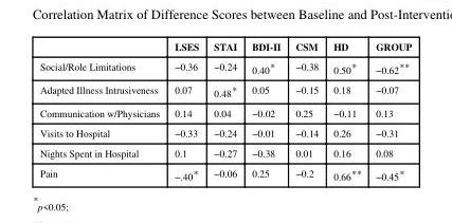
<table><thead><tr><td></td><td>LSES</td><td>STAI</td><td>BDI-II</td><td>CSM</td><td>HD</td><td>GROUP</td></tr></thead><tbody><tr><td>Social/Role Limitations</td><td>−0.36</td><td>−0.24</td><td>0.40*</td><td>−0.38</td><td>0.50*</td><td>−0.62**</td></tr><tr><td>Adapted Illness Intrusiveness</td><td>0.07</td><td>0.48*</td><td>0.05</td><td>−0.15</td><td>0.18</td><td>−0.07</td></tr><tr><td>Communication w/Physicians</td><td>0.14</td><td>0.04</td><td>−0.02</td><td>0.25</td><td>−0.11</td><td>0.13</td></tr><tr><td>Visits to Hospital</td><td>−0.33</td><td>−0.24</td><td>−0.01</td><td>−0.14</td><td>0.26</td><td>−0.31</td></tr><tr><td>Nights Spent in Hospital</td><td>0.1</td><td>−0.27</td><td>−0.38</td><td>0.01</td><td>0.16</td><td>0.08</td></tr><tr><td>Pain</td><td>−.40*</td><td>−0.06</td><td>0.25</td><td>−0.2</td><td>0.66**</td><td>−0.45*</td></tr></tbody></table>